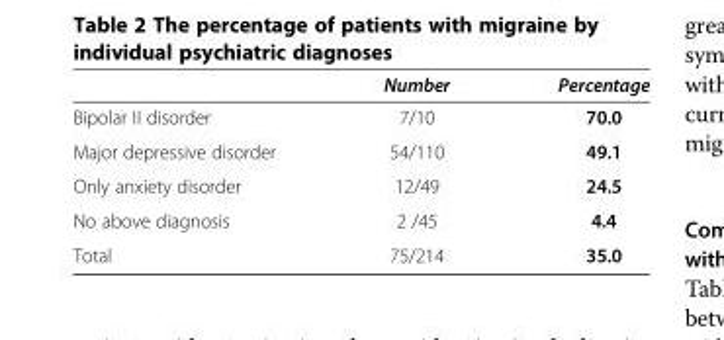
<table><thead><tr><td></td><td>Number</td><td>Percentage</td></tr></thead><tbody><tr><td>Bipolar II disorder</td><td>7/10</td><td>70.0</td></tr><tr><td>Major depressive disorder</td><td>54/110</td><td>49.1</td></tr><tr><td>Only anxiety disorder</td><td>12/49</td><td>24.5</td></tr><tr><td>No above diagnosis</td><td>2 /45</td><td>4.4</td></tr><tr><td>Total</td><td>75/214</td><td>35.0</td></tr></tbody></table>